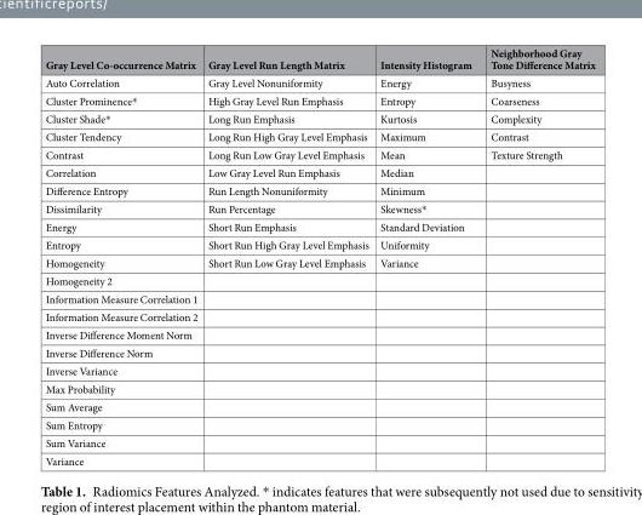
<table><thead><tr><td>Gray Level Co-occurrence Matrix</td><td>Gray Level Run Length Matrix</td><td>Intensity Histogram</td><td>Neighborhood Gray Tone Difference Matrix</td></tr></thead><tbody><tr><td>Auto Correlation</td><td>Gray Level Nonuniformity</td><td>Energy</td><td>Busyness</td></tr><tr><td>Cluster Prominence*</td><td>High Gray Level Run Emphasis</td><td>Entropy</td><td>Coarseness</td></tr><tr><td>Cluster Shade*</td><td>Long Run Emphasis</td><td>Kurtosis</td><td>Complexity</td></tr><tr><td>Cluster Tendency</td><td>Long Run High Gray Level Emphasis</td><td>Maximum</td><td>Contrast</td></tr><tr><td>Contrast</td><td>Long Run Low Gray Level Emphasis</td><td>Mean</td><td>Texture Strength</td></tr><tr><td>Correlation</td><td>Low Gray Level Run Emphasis</td><td>Median</td><td></td></tr><tr><td>Difference Entropy</td><td>Run Length Nonuniformity</td><td>Minimum</td><td></td></tr><tr><td>Dissimilarity</td><td>Run Percentage</td><td>Skewness*</td><td></td></tr><tr><td>Energy</td><td>Short Run Emphasis</td><td>Standard Deviation</td><td></td></tr><tr><td>Entropy</td><td>Short Run High Gray Level Emphasis</td><td>Uniformity</td><td></td></tr><tr><td>Homogeneity</td><td>Short Run Low Gray Level Emphasis</td><td>Variance</td><td></td></tr><tr><td colspan="4">Homogeneity 2</td></tr><tr><td colspan="4">Information Measure Correlation 1</td></tr><tr><td colspan="4">Information Measure Correlation 2</td></tr><tr><td colspan="4">Inverse Difference Moment Norm</td></tr><tr><td colspan="4">Inverse Difference Norm</td></tr><tr><td colspan="4">Inverse Variance</td></tr><tr><td colspan="4">Max Probability</td></tr><tr><td colspan="4">Sum Average</td></tr><tr><td colspan="4">Sum Entropy</td></tr><tr><td colspan="4">Sum Variance</td></tr><tr><td>Variance</td><td></td><td></td><td></td></tr></tbody></table>